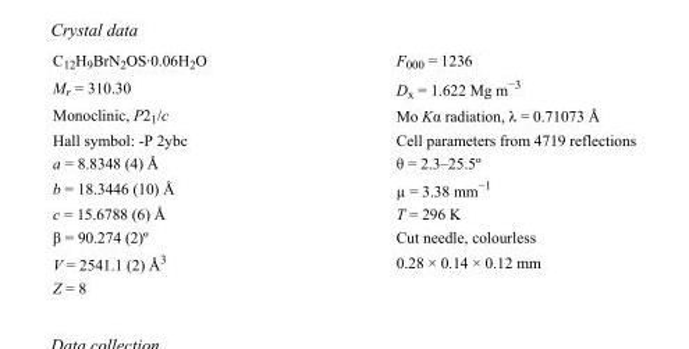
<table><tbody><tr><td>C<sub>12</sub>H<sub>9</sub>BrN<sub>2</sub>OS·0.06H<sub>2</sub>O</td><td>F000 = 1236</td></tr><tr><td>M<sub>r</sub> = 310.30</td><td>D<sub>x</sub> = 1.622 Mg m<sup>−3</sup></td></tr><tr><td>Monoclinic, P2<sub>1</sub>/c</td><td>Mo Kα radiation, λ = 0.71073 Å</td></tr><tr><td>Hall symbol: -P 2ybc</td><td>Cell parameters from 4719 reflections</td></tr><tr><td>a = 8.8348 (4) Å</td><td>θ = 2.3–25.5º</td></tr><tr><td>b = 18.3446 (10) Å</td><td>µ = 3.38 mm<sup>−1</sup></td></tr><tr><td>c = 15.6788 (6) Å</td><td>T = 296 K</td></tr><tr><td>β = 90.274 (2)º</td><td>Cut needle, colourless</td></tr><tr><td>V = 2541.1 (2) Å<sup>3</sup></td><td>0.28 × 0.14 × 0.12 mm</td></tr><tr><td>Z = 8</td><td></td></tr></tbody></table>